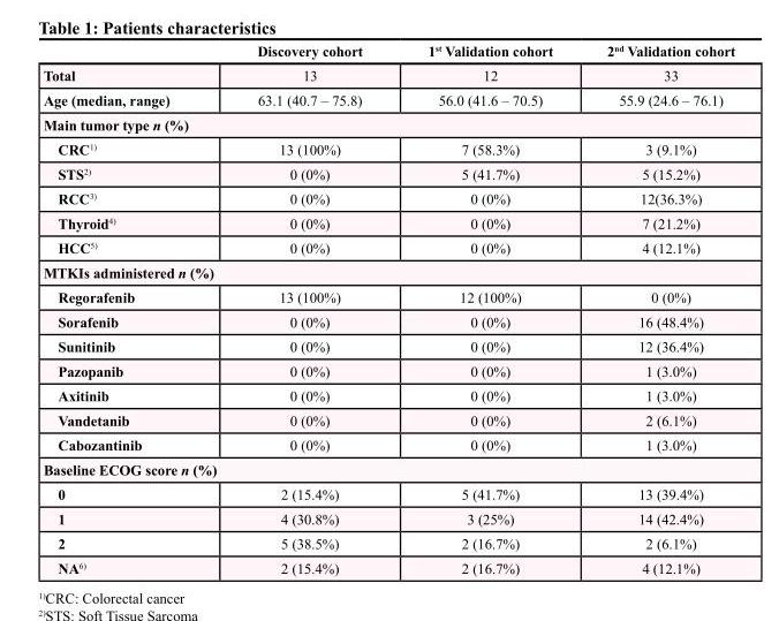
<table><thead><tr><td></td><td>Discovery cohort</td><td>1<sup>st</sup> Validation cohort</td><td>2<sup>nd</sup> Validation cohort</td></tr></thead><tbody><tr><td>Total</td><td>13</td><td>12</td><td>33</td></tr><tr><td>Age (median, range)</td><td>63.1 (40.7 – 75.8)</td><td>56.0 (41.6 – 70.5)</td><td>55.9 (24.6 – 76.1)</td></tr><tr><td colspan="4">Main tumor type n (%)</td></tr><tr><td>CRC<sup>1)</sup></td><td>13 (100%)</td><td>7 (58.3%)</td><td>3 (9.1%)</td></tr><tr><td>STS<sup>2)</sup></td><td>0 (0%)</td><td>5 (41.7%)</td><td>5 (15.2%)</td></tr><tr><td>RCC<sup>3)</sup></td><td>0 (0%)</td><td>0 (0%)</td><td>12(36.3%)</td></tr><tr><td>Thyroid<sup>4)</sup></td><td>0 (0%)</td><td>0 (0%)</td><td>7 (21.2%)</td></tr><tr><td>HCC<sup>5)</sup></td><td>0 (0%)</td><td>0 (0%)</td><td>4 (12.1%)</td></tr><tr><td colspan="4">MTKIs administered n (%)</td></tr><tr><td>Regorafenib</td><td>13 (100%)</td><td>12 (100%)</td><td>0 (0%)</td></tr><tr><td>Sorafenib</td><td>0 (0%)</td><td>0 (0%)</td><td>16 (48.4%)</td></tr><tr><td>Sunitinib</td><td>0 (0%)</td><td>0 (0%)</td><td>12 (36.4%)</td></tr><tr><td>Pazopanib</td><td>0 (0%)</td><td>0 (0%)</td><td>1 (3.0%)</td></tr><tr><td>Axitinib</td><td>0 (0%)</td><td>0 (0%)</td><td>1 (3.0%)</td></tr><tr><td>Vandetanib</td><td>0 (0%)</td><td>0 (0%)</td><td>2 (6.1%)</td></tr><tr><td>Cabozantinib</td><td>0 (0%)</td><td>0 (0%)</td><td>1 (3.0%)</td></tr><tr><td colspan="4">Baseline ECOG score n (%)</td></tr><tr><td>0</td><td>2 (15.4%)</td><td>5 (41.7%)</td><td>13 (39.4%)</td></tr><tr><td>1</td><td>4 (30.8%)</td><td>3 (25%)</td><td>14 (42.4%)</td></tr><tr><td>2</td><td>5 (38.5%)</td><td>2 (16.7%)</td><td>2 (6.1%)</td></tr><tr><td>NA<sup>6)</sup></td><td>2 (15.4%)</td><td>2 (16.7%)</td><td>4 (12.1%)</td></tr></tbody></table>